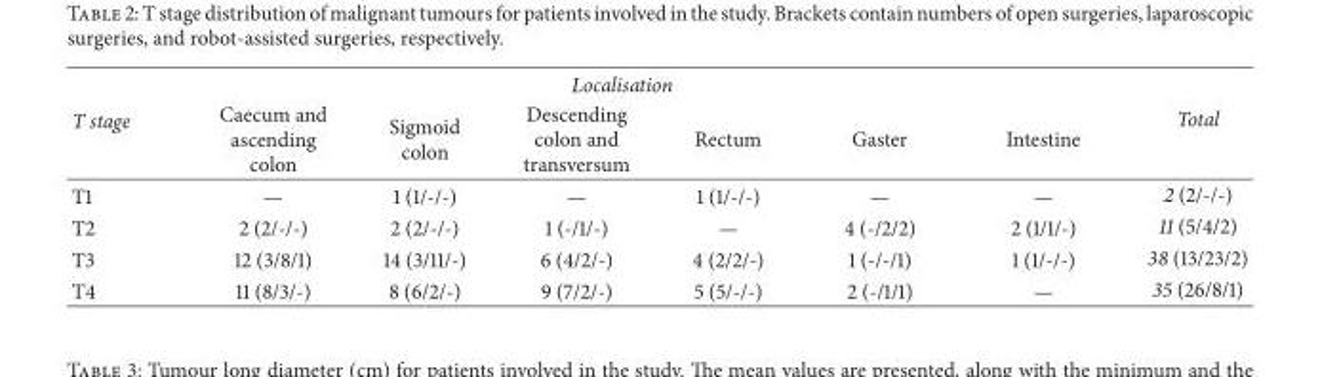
<table><thead><tr><td rowspan="2">T stage</td><td colspan="6">Localisation</td><td rowspan="2">Total</td></tr><tr><td>Caecum and ascending colon</td><td>Sigmoid colon</td><td>Descending colon and transversum</td><td>Rectum</td><td>Gaster</td><td>Intestine</td></tr></thead><tbody><tr><td>T1</td><td>—</td><td>1 (1/-/-)</td><td>—</td><td>1 (1/-/-)</td><td>—</td><td>—</td><td>2 (2/-/-)</td></tr><tr><td>T2</td><td>2 (2/-/-)</td><td>2 (2/-/-)</td><td>1 (-/1/-)</td><td>—</td><td>4 (-/2/2)</td><td>2 (1/1/-)</td><td>11 (5/4/2)</td></tr><tr><td>T3</td><td>12 (3/8/1)</td><td>14 (3/11/-)</td><td>6 (4/2/-)</td><td>4 (2/2/-)</td><td>1 (-/-/1)</td><td>1 (1/-/-)</td><td>38 (13/23/2)</td></tr><tr><td>T4</td><td>11 (8/3/-)</td><td>8 (6/2/-)</td><td>9 (7/2/-)</td><td>5 (5/-/-)</td><td>2 (-/1/1)</td><td>—</td><td>35 (26/8/1)</td></tr></tbody></table>